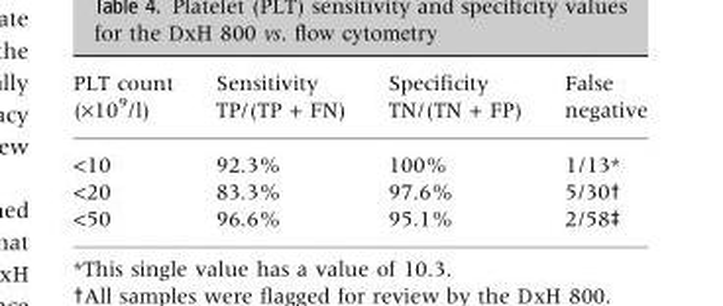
<table><thead><tr><td>PLT count (×10<sup>9</sup>/l)</td><td>Sensitivity TP/(TP + FN)</td><td>Specificity TN/(TN + FP)</td><td>False negative</td></tr></thead><tbody><tr><td>&lt;10</td><td>92.3%</td><td>100%</td><td>1/13*</td></tr><tr><td>&lt;20</td><td>83.3%</td><td>97.6%</td><td>5/30†</td></tr><tr><td>&lt;50</td><td>96.6%</td><td>95.1%</td><td>2/58‡</td></tr></tbody></table>